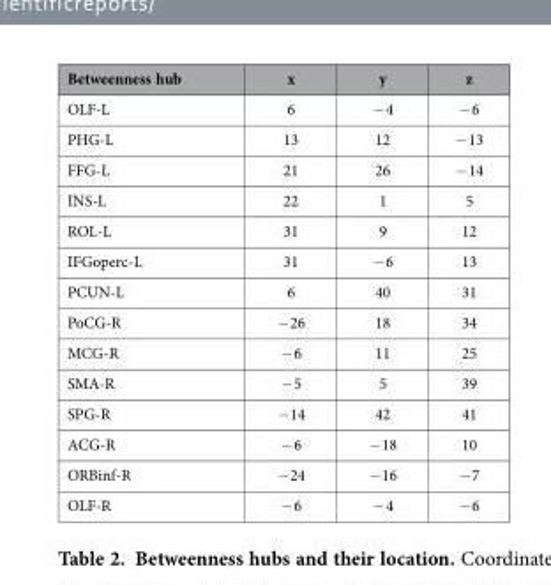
<table><thead><tr><td>Betweenness hub</td><td>x</td><td>y</td><td>z</td></tr></thead><tbody><tr><td>OLF-L</td><td>6</td><td>− 4</td><td>− 6</td></tr><tr><td>PHG-L</td><td>13</td><td>12</td><td>− 13</td></tr><tr><td>FFG-L</td><td>21</td><td>26</td><td>− 14</td></tr><tr><td>INS-L</td><td>22</td><td>1</td><td>5</td></tr><tr><td>ROL-L</td><td>31</td><td>9</td><td>12</td></tr><tr><td>IFGoperc-L</td><td>31</td><td>− 6</td><td>13</td></tr><tr><td>PCUN-L</td><td>6</td><td>40</td><td>31</td></tr><tr><td>PoCG-R</td><td>− 26</td><td>18</td><td>34</td></tr><tr><td>MCG-R</td><td>− 6</td><td>11</td><td>25</td></tr><tr><td>SMA-R</td><td>− 5</td><td>5</td><td>39</td></tr><tr><td>SPG-R</td><td>− 14</td><td>42</td><td>41</td></tr><tr><td>ACG-R</td><td>− 6</td><td>− 18</td><td>10</td></tr><tr><td>ORBinf-R</td><td>− 24</td><td>− 16</td><td>− 7</td></tr><tr><td>OLF-R</td><td>− 6</td><td>− 4</td><td>− 6</td></tr></tbody></table>